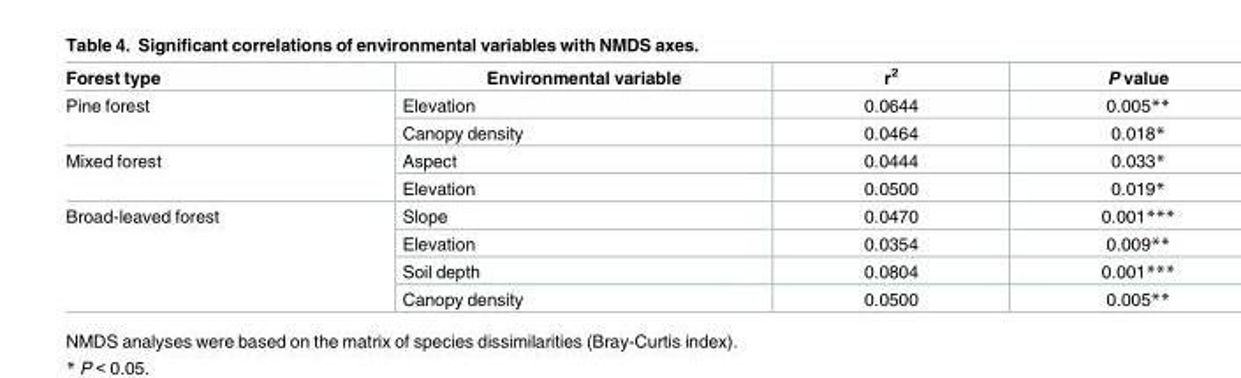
<table><thead><tr><td>Forest type</td><td>Environmental variable</td><td>r<sup>2</sup></td><td>P value</td></tr></thead><tbody><tr><td rowspan="2">Pine forest</td><td>Elevation</td><td>0.0644</td><td>0.005**</td></tr><tr><td>Canopy density</td><td>0.0464</td><td>0.018*</td></tr><tr><td rowspan="2">Mixed forest</td><td>Aspect</td><td>0.0444</td><td>0.033*</td></tr><tr><td>Elevation</td><td>0.0500</td><td>0.019*</td></tr><tr><td rowspan="4">Broad-leaved forest</td><td>Slope</td><td>0.0470</td><td>0.001***</td></tr><tr><td>Elevation</td><td>0.0354</td><td>0.009**</td></tr><tr><td>Soil depth</td><td>0.0804</td><td>0.001***</td></tr><tr><td>Canopy density</td><td>0.0500</td><td>0.005**</td></tr></tbody></table>